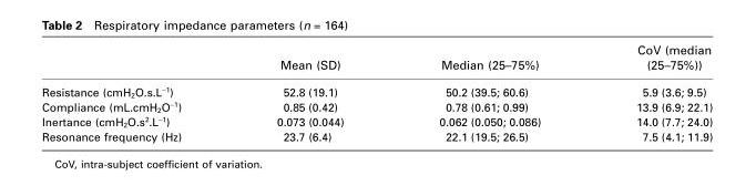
<table><thead><tr><td></td><td>Mean (SD)</td><td>Median (25–75%)</td><td>CoV (median (25–75%))</td></tr></thead><tbody><tr><td>Resistance (cmH<sub>2</sub>O.s.L<sup>−1</sup>)</td><td>52.8 (19.1)</td><td>50.2 (39.5; 60.6)</td><td>5.9 (3.6; 9.5)</td></tr><tr><td>Compliance (mL.cmH<sub>2</sub>O<sup>−1</sup>)</td><td>0.85 (0.42)</td><td>0.78 (0.61; 0.99)</td><td>13.9 (6.9; 22.1)</td></tr><tr><td>Inertance (cmH<sub>2</sub>O.s<sup>2</sup>.L<sup>−1</sup>)</td><td>0.073 (0.044)</td><td>0.062 (0.050; 0.086)</td><td>14.0 (7.7; 24.0)</td></tr><tr><td>Resonance frequency (Hz)</td><td>23.7 (6.4)</td><td>22.1 (19.5; 26.5)</td><td>7.5 (4.1; 11.9)</td></tr></tbody></table>